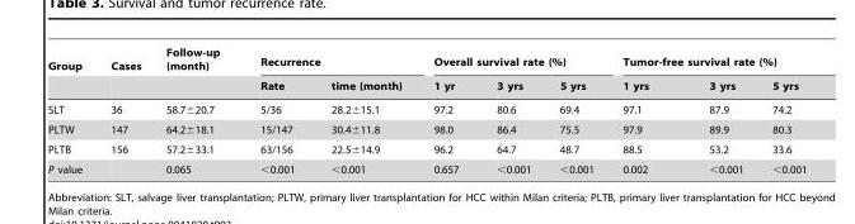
<table><thead><tr><td rowspan="2">Group</td><td rowspan="2">Cases</td><td rowspan="2">Follow-up (month)</td><td colspan="2">Recurrence</td><td colspan="3">Overall survival rate (%)</td><td colspan="3">Tumor-free survival rate (%)</td></tr><tr><td>Rate</td><td>time (month)</td><td>1 yr</td><td>3 yrs</td><td>5 yrs</td><td>1 yrs</td><td>3 yrs</td><td>5 yrs</td></tr></thead><tbody><tr><td>SLT</td><td>36</td><td>58.7±20.7</td><td>5/36</td><td>28.2±15.1</td><td>97.2</td><td>80.6</td><td>69.4</td><td>97.1</td><td>87.9</td><td>74.2</td></tr><tr><td>PLTW</td><td>147</td><td>64.2±18.1</td><td>15/147</td><td>30.4±11.8</td><td>98.0</td><td>86.4</td><td>75.5</td><td>97.9</td><td>89.9</td><td>80.3</td></tr><tr><td>PLTB</td><td>156</td><td>57.2±33.1</td><td>63/156</td><td>22.5±14.9</td><td>96.2</td><td>64.7</td><td>48.7</td><td>88.5</td><td>53.2</td><td>33.6</td></tr><tr><td>P value</td><td></td><td>0.065</td><td>&lt;0.001</td><td>&lt;0.001</td><td>0.657</td><td>&lt;0.001</td><td>&lt;0.001</td><td>0.002</td><td>&lt;0.001</td><td>&lt;0.001</td></tr></tbody></table>